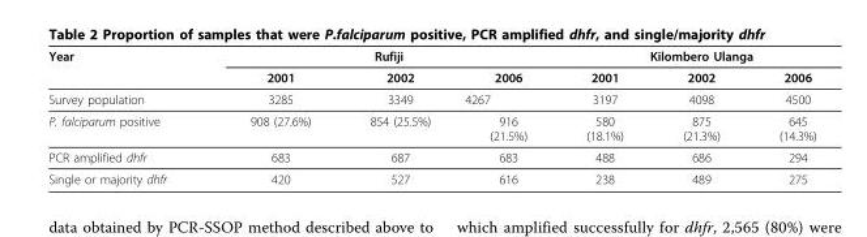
<table><thead><tr><td rowspan="2">Year</td><td colspan="3">Rufiji</td><td colspan="3">Kilombero Ulanga</td></tr><tr><td>2001</td><td>2002</td><td>2006</td><td>2001</td><td>2002</td><td>2006</td></tr></thead><tbody><tr><td>Survey population</td><td>3285</td><td>3349</td><td>4267</td><td>3197</td><td>4098</td><td>4500</td></tr><tr><td>P. falciparum positive</td><td>908 (27.6%)</td><td>854 (25.5%)</td><td>916 (21.5%)</td><td>580 (18.1%)</td><td>875 (21.3%)</td><td>645 (14.3%)</td></tr><tr><td>PCR amplified dhfr</td><td>683</td><td>687</td><td>683</td><td>488</td><td>686</td><td>294</td></tr><tr><td>Single or majority dhfr</td><td>420</td><td>527</td><td>616</td><td>238</td><td>489</td><td>275</td></tr></tbody></table>